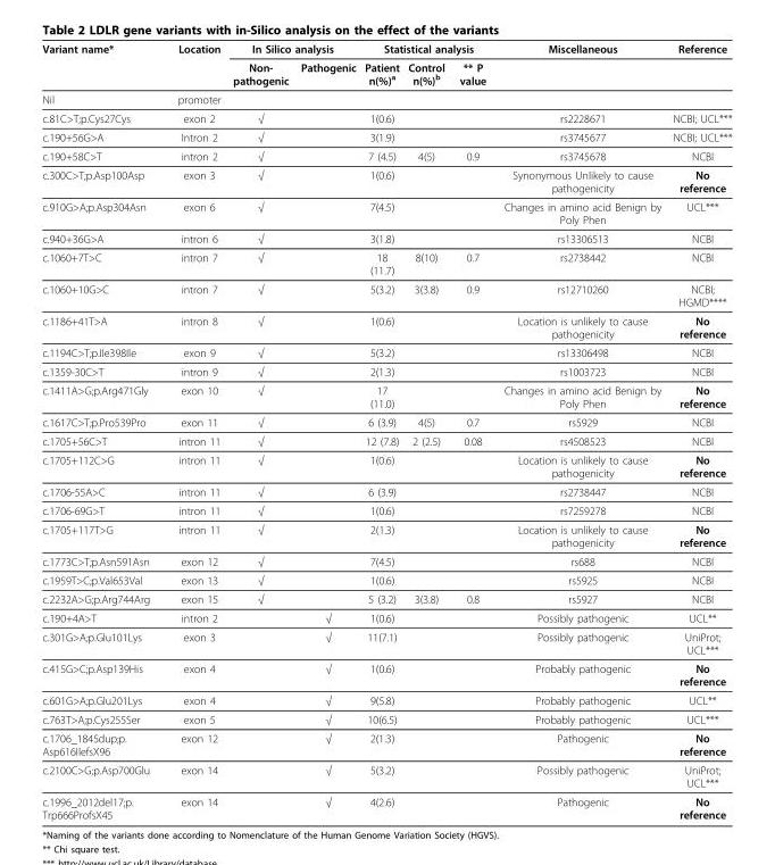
<table><thead><tr><td rowspan="2">Variant name*</td><td rowspan="2">Location</td><td colspan="2">In Silico analysis</td><td colspan="3">Statistical analysis</td><td rowspan="2">Miscellaneous</td><td rowspan="2">Reference</td></tr><tr><td>Non- pathogenic</td><td>Pathogenic</td><td>Patient n(%)<sup>a</sup></td><td>Control n(%)<sup>b</sup></td><td>** P value</td></tr></thead><tbody><tr><td>Nil</td><td>promoter</td><td></td><td></td><td></td><td></td><td></td><td></td><td></td></tr><tr><td>c.81C&gt;T;p.Cys27Cys</td><td>exon 2</td><td>√</td><td></td><td>1(0.6)</td><td></td><td></td><td>rs2228671</td><td>NCBI; UCL***</td></tr><tr><td>c.190+56G&gt;A</td><td>Intron 2</td><td>√</td><td></td><td>3(1.9)</td><td></td><td></td><td>rs3745677</td><td>NCBI; UCL***</td></tr><tr><td>c.190+58C&gt;T</td><td>intron 2</td><td>√</td><td></td><td>7 (4.5)</td><td>4(5)</td><td>0.9</td><td>rs3745678</td><td>NCBI</td></tr><tr><td>c.300C&gt;T;p.Asp100Asp</td><td>exon 3</td><td>√</td><td></td><td>1(0.6)</td><td></td><td></td><td>Synonymous Unlikely to cause pathogenicity</td><td>No reference</td></tr><tr><td>c.910G&gt;A;p.Asp304Asn</td><td>exon 6</td><td>√</td><td></td><td>7(4.5)</td><td></td><td></td><td>Changes in amino acid Benign by Poly Phen</td><td>UCL***</td></tr><tr><td>c.940+36G&gt;A</td><td>intron 6</td><td>√</td><td></td><td>3(1.8)</td><td></td><td></td><td>rs13306513</td><td>NCBI</td></tr><tr><td>c.1060+7T&gt;C</td><td>intron 7</td><td>√</td><td></td><td>18 (11.7)</td><td>8(10)</td><td>0.7</td><td>rs2738442</td><td>NCBI</td></tr><tr><td>c.1060+10G&gt;C</td><td>intron 7</td><td>√</td><td></td><td>5(3.2)</td><td>3(3.8)</td><td>0.9</td><td>rs12710260</td><td>NCBI; HGMD****</td></tr><tr><td>c.1186+41T&gt;A</td><td>intron 8</td><td>√</td><td></td><td>1(0.6)</td><td></td><td></td><td>Location is unlikely to cause pathogenicity</td><td>No reference</td></tr><tr><td>c.1194C&gt;T;p.Ile398Ile</td><td>exon 9</td><td>√</td><td></td><td>5(3.2)</td><td></td><td></td><td>rs13306498</td><td>NCBI</td></tr><tr><td>c.1359-30C&gt;T</td><td>intron 9</td><td>√</td><td></td><td>2(1.3)</td><td></td><td></td><td>rs1003723</td><td>NCBI</td></tr><tr><td>c.1411A&gt;G;p.Arg471Gly</td><td>exon 10</td><td>√</td><td></td><td>17 (11.0)</td><td></td><td></td><td>Changes in amino acid Benign by Poly Phen</td><td>No reference</td></tr><tr><td>c.1617C&gt;T;p.Pro539Pro</td><td>exon 11</td><td>√</td><td></td><td>6 (3.9)</td><td>4(5)</td><td>0.7</td><td>rs5929</td><td>NCBI</td></tr><tr><td>c.1705+56C&gt;T</td><td>intron 11</td><td>√</td><td></td><td>12 (7.8)</td><td>2 (2.5)</td><td>0.08</td><td>rs4508523</td><td>NCBI</td></tr><tr><td>c.1705+112C&gt;G</td><td>intron 11</td><td>√</td><td></td><td>1(0.6)</td><td></td><td></td><td>Location is unlikely to cause pathogenicity</td><td>No reference</td></tr><tr><td>c.1706-55A&gt;C</td><td>intron 11</td><td>√</td><td></td><td>6 (3.9)</td><td></td><td></td><td>rs2738447</td><td>NCBI</td></tr><tr><td>c.1706-69G&gt;T</td><td>intron 11</td><td>√</td><td></td><td>1(0.6)</td><td></td><td></td><td>rs7259278</td><td>NCBI</td></tr><tr><td>c.1705+117T&gt;G</td><td>intron 11</td><td>√</td><td></td><td>2(1.3)</td><td></td><td></td><td>Location is unlikely to cause pathogenicity</td><td>No reference</td></tr><tr><td>c.1773C&gt;T;p.Asn591Asn</td><td>exon 12</td><td>√</td><td></td><td>7(4.5)</td><td></td><td></td><td>rs688</td><td>NCBI</td></tr><tr><td>c.1959T&gt;C;p.Val653Val</td><td>exon 13</td><td>√</td><td></td><td>1(0.6)</td><td></td><td></td><td>rs5925</td><td>NCBI</td></tr><tr><td>c.2232A&gt;G;p.Arg744Arg</td><td>exon 15</td><td>√</td><td></td><td>5 (3.2)</td><td>3(3.8)</td><td>0.8</td><td>rs5927</td><td>NCBI</td></tr><tr><td>c.190+4A&gt;T</td><td>intron 2</td><td></td><td>√</td><td>1(0.6)</td><td></td><td></td><td>Possibly pathogenic</td><td>UCL**</td></tr><tr><td>c.301G&gt;A;p.Glu101Lys</td><td>exon 3</td><td></td><td>√</td><td>11(7.1)</td><td></td><td></td><td>Possibly pathogenic</td><td>UniProt; UCL***</td></tr><tr><td>c.415G&gt;C;p.Asp139His</td><td>exon 4</td><td></td><td>√</td><td>1(0.6)</td><td></td><td></td><td>Probably pathogenic</td><td>No reference</td></tr><tr><td>c.601G&gt;A;p.Glu201Lys</td><td>exon 4</td><td></td><td>√</td><td>9(5.8)</td><td></td><td></td><td>Probably pathogenic</td><td>UCL**</td></tr><tr><td>c.763T&gt;A;p.Cys255Ser</td><td>exon 5</td><td></td><td>√</td><td>10(6.5)</td><td></td><td></td><td>Probably pathogenic</td><td>UCL***</td></tr><tr><td>c.1706_1845dup;p. Asp616IlefsX96</td><td>exon 12</td><td></td><td>√</td><td>2(1.3)</td><td></td><td></td><td>Pathogenic</td><td>No reference</td></tr><tr><td>c.2100C&gt;G;p.Asp700Glu</td><td>exon 14</td><td></td><td>√</td><td>5(3.2)</td><td></td><td></td><td>Possibly pathogenic</td><td>UniProt; UCL***</td></tr><tr><td>c.1996_2012del17;p. Trp666ProfsX45</td><td>exon 14</td><td></td><td>√</td><td>4(2.6)</td><td></td><td></td><td>Pathogenic</td><td>No reference</td></tr></tbody></table>